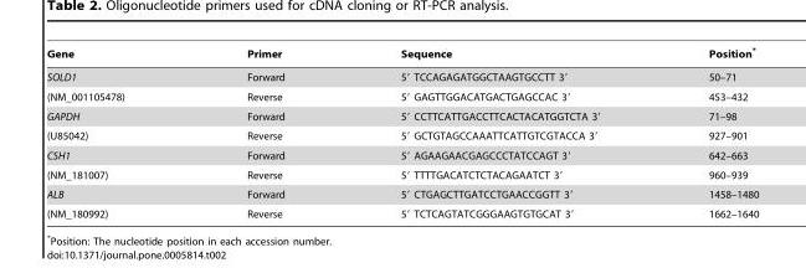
<table><thead><tr><td>Gene</td><td>Primer</td><td>Sequence</td><td>Position*</td></tr></thead><tbody><tr><td>SOLD1</td><td>Forward</td><td>5′ TCCAGAGATGGCTAAGTGCCTT 3′</td><td>50–71</td></tr><tr><td>(NM_001105478)</td><td>Reverse</td><td>5′ GAGTTGGACATGACTGAGCCAC 3′</td><td>453–432</td></tr><tr><td>GAPDH</td><td>Forward</td><td>5′ CCTTCATTGACCTTCACTACATGGTCTA 3′</td><td>71–98</td></tr><tr><td>(U85042)</td><td>Reverse</td><td>5′ GCTGTAGCCAAATTCATTGTCGTACCA 3′</td><td>927–901</td></tr><tr><td>CSH1</td><td>Forward</td><td>5′ AGAAGAACGAGCCCTATCCAGT 3′</td><td>642–663</td></tr><tr><td>(NM_181007)</td><td>Reverse</td><td>5′ TTTTGACATCTCTACAGAATCT 3′</td><td>960–939</td></tr><tr><td>ALB</td><td>Forward</td><td>5′ CTGAGCTTGATCCTGAACCGGTT 3′</td><td>1458–1480</td></tr><tr><td>(NM_180992)</td><td>Reverse</td><td>5′ TCTCAGTATCGGGAAGTGTGCAT 3′</td><td>1662–1640</td></tr></tbody></table>